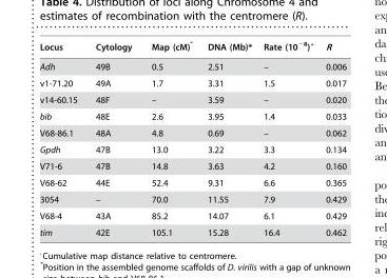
<table><thead><tr><td>Locus</td><td>Cytology</td><td>Map (cM)ˆ</td><td>DNA (Mb)*</td><td>Rate (10<sup>−8</sup>)+</td><td>R</td></tr></thead><tbody><tr><td>Adh</td><td>49B</td><td>0.5</td><td>2.51</td><td>–</td><td>0.006</td></tr><tr><td>v1-71.20</td><td>49A</td><td>1.7</td><td>3.31</td><td>1.5</td><td>0.017</td></tr><tr><td>v14-60.15</td><td>48F</td><td>–</td><td>3.59</td><td>–</td><td>0.020</td></tr><tr><td>bib</td><td>48E</td><td>2.6</td><td>3.95</td><td>1.4</td><td>0.033</td></tr><tr><td>V68-86.1</td><td>48A</td><td>4.8</td><td>0.69</td><td>–</td><td>0.062</td></tr><tr><td>Gpdh</td><td>47B</td><td>13.0</td><td>3.22</td><td>3.3</td><td>0.134</td></tr><tr><td>V71-6</td><td>47B</td><td>14.8</td><td>3.63</td><td>4.2</td><td>0.160</td></tr><tr><td>V68-62</td><td>44E</td><td>52.4</td><td>9.31</td><td>6.6</td><td>0.365</td></tr><tr><td>3054</td><td>–</td><td>70.0</td><td>11.55</td><td>7.9</td><td>0.429</td></tr><tr><td>V68-4</td><td>43A</td><td>85.2</td><td>14.07</td><td>6.1</td><td>0.429</td></tr><tr><td>tim</td><td>42E</td><td>105.1</td><td>15.28</td><td>16.4</td><td>0.462</td></tr></tbody></table>